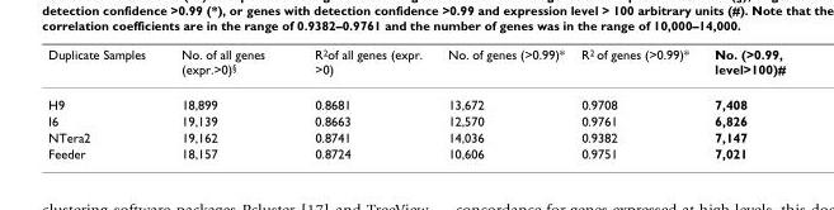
<table><thead><tr><td>Duplicate Samples</td><td>No. of all genes (expr.&gt;0)<sup>§</sup></td><td>R<sup>2</sup>of all genes (expr. &gt;0)</td><td>No. of genes (&gt;0.99)*</td><td>R<sup>2</sup> of genes (&gt;0.99)*</td><td>No. (&gt;0.99, level&gt;100)#</td></tr></thead><tbody><tr><td>H9</td><td>18,899</td><td>0.8681</td><td>13,672</td><td>0.9708</td><td>7,408</td></tr><tr><td>I6</td><td>19,139</td><td>0.8663</td><td>12,570</td><td>0.9761</td><td>6,826</td></tr><tr><td>NTera2</td><td>19,162</td><td>0.8741</td><td>14,036</td><td>0.9382</td><td>7,147</td></tr><tr><td>Feeder</td><td>18,157</td><td>0.8724</td><td>10,606</td><td>0.9751</td><td>7,021</td></tr></tbody></table>